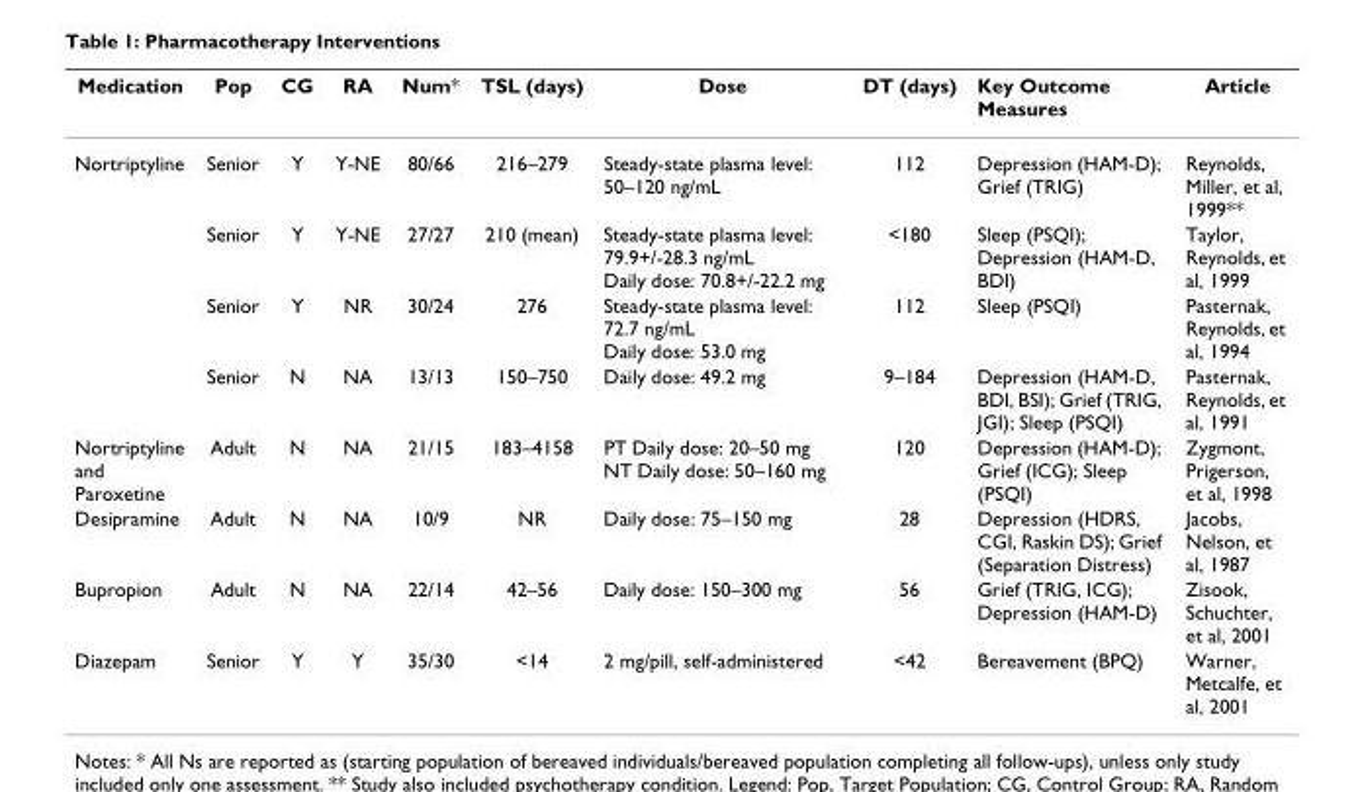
<table><thead><tr><td>Medication</td><td>Pop</td><td>CG</td><td>RA</td><td>Num*</td><td>TSL (days)</td><td>Dose</td><td>DT (days)</td><td>Key Outcome Measures</td><td>Article</td></tr></thead><tbody><tr><td rowspan="4">Nortriptyline</td><td>Senior</td><td>Y</td><td>Y-NE</td><td>80/66</td><td>216–279</td><td>Steady-state plasma level: 50–120 ng/mL</td><td>112</td><td>Depression (HAM-D); Grief (TRIG)</td><td>Reynolds, Miller, et al, 1999**</td></tr><tr><td>Senior</td><td>Y</td><td>Y-NE</td><td>27/27</td><td>210 (mean)</td><td>Steady-state plasma level: 79.9+/-28.3 ng/mL Daily dose: 70.8+/-22.2 mg</td><td>&lt;180</td><td>Sleep (PSQI); Depression (HAM-D, BDI)</td><td>Taylor, Reynolds, et al, 1999</td></tr><tr><td>Senior</td><td>Y</td><td>NR</td><td>30/24</td><td>276</td><td>Steady-state plasma level: 72.7 ng/mL Daily dose: 53.0 mg</td><td>112</td><td>Sleep (PSQI)</td><td>Pasternak, Reynolds, et al, 1994</td></tr><tr><td>Senior</td><td>N</td><td>NA</td><td>13/13</td><td>150–750</td><td>Daily dose: 49.2 mg</td><td>9–184</td><td>Depression (HAM-D, BDI, BSI); Grief (TRIG, JGI); Sleep (PSQI)</td><td>Pasternak, Reynolds, et al, 1991</td></tr><tr><td>Nortriptyline and Paroxetine</td><td>Adult</td><td>N</td><td>NA</td><td>21/15</td><td>183–4158</td><td>PT Daily dose: 20–50 mg NT Daily dose: 50–160 mg</td><td>120</td><td>Depression (HAM-D); Grief (ICG); Sleep (PSQI)</td><td>Zygmont, Prigerson, et al, 1998</td></tr><tr><td>Desipramine</td><td>Adult</td><td>N</td><td>NA</td><td>10/9</td><td>NR</td><td>Daily dose: 75–150 mg</td><td>28</td><td>Depression (HDRS, CGI, Raskin DS); Grief (Separation Distress)</td><td>Jacobs, Nelson, et al, 1987</td></tr><tr><td>Bupropion</td><td>Adult</td><td>N</td><td>NA</td><td>22/14</td><td>42–56</td><td>Daily dose: 150–300 mg</td><td>56</td><td>Grief (TRIG, ICG); Depression (HAM-D)</td><td>Zisook, Schuchter, et al, 2001</td></tr><tr><td>Diazepam</td><td>Senior</td><td>Y</td><td>Y</td><td>35/30</td><td>&lt;14</td><td>2 mg/pill, self-administered</td><td>&lt;42</td><td>Bereavement (BPQ)</td><td>Warner, Metcalfe, et al, 2001</td></tr></tbody></table>